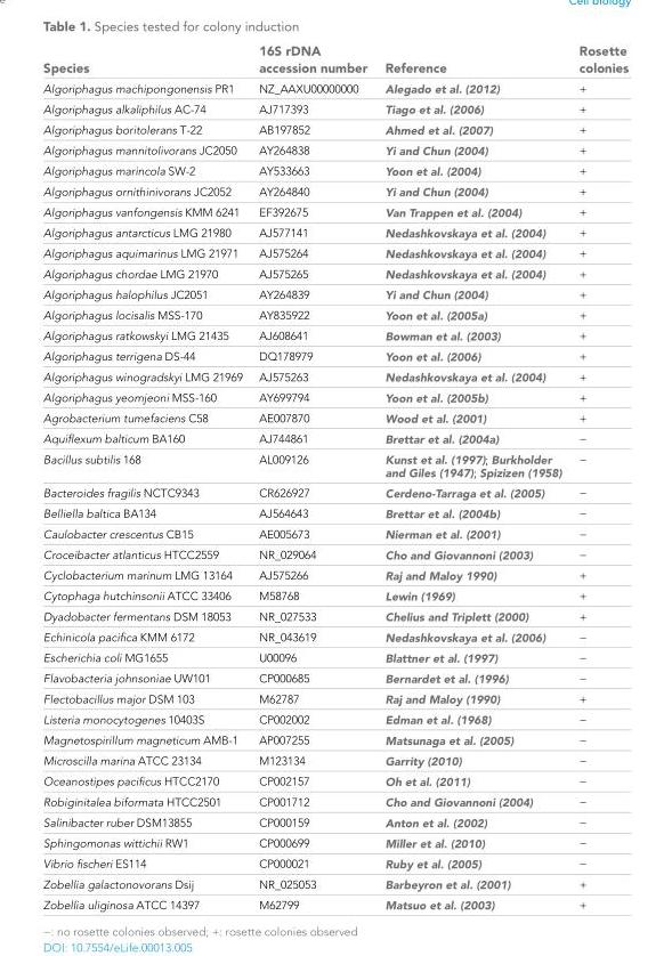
<table><thead><tr><td>Species</td><td>16S rDNA accession number</td><td>Reference</td><td>Rosette colonies</td></tr></thead><tbody><tr><td>Algoriphagus machipongonensis PR1</td><td>NZ_AAXU00000000</td><td>Alegado et al. (2012)</td><td>+</td></tr><tr><td>Algoriphagus alkaliphilus AC-74</td><td>AJ717393</td><td>Tiago et al. (2006)</td><td>+</td></tr><tr><td>Algoriphagus boritolerans T-22</td><td>AB197852</td><td>Ahmed et al. (2007)</td><td>+</td></tr><tr><td>Algoriphagus mannitolivorans JC2050</td><td>AY264838</td><td>Yi and Chun (2004)</td><td>+</td></tr><tr><td>Algoriphagus marincola SW-2</td><td>AY533663</td><td>Yoon et al. (2004)</td><td>+</td></tr><tr><td>Algoriphagus ornithinivorans JC2052</td><td>AY264840</td><td>Yi and Chun (2004)</td><td>+</td></tr><tr><td>Algoriphagus vanfongensis KMM 6241</td><td>EF392675</td><td>Van Trappen et al. (2004)</td><td>+</td></tr><tr><td>Algoriphagus antarcticus LMG 21980</td><td>AJ577141</td><td>Nedashkovskaya et al. (2004)</td><td>+</td></tr><tr><td>Algoriphagus aquimarinus LMG 21971</td><td>AJ575264</td><td>Nedashkovskaya et al. (2004)</td><td>+</td></tr><tr><td>Algoriphagus chordae LMG 21970</td><td>AJ575265</td><td>Nedashkovskaya et al. (2004)</td><td>+</td></tr><tr><td>Algoriphagus halophilus JC2051</td><td>AY264839</td><td>Yi and Chun (2004)</td><td>+</td></tr><tr><td>Algoriphagus locisalis MSS-170</td><td>AY835922</td><td>Yoon et al. (2005a)</td><td>+</td></tr><tr><td>Algoriphagus ratkowskyi LMG 21435</td><td>AJ608641</td><td>Bowman et al. (2003)</td><td>+</td></tr><tr><td>Algoriphagus terrigena DS-44</td><td>DQ178979</td><td>Yoon et al. (2006)</td><td>+</td></tr><tr><td>Algoriphagus winogradskyi LMG 21969</td><td>AJ575263</td><td>Nedashkovskaya et al. (2004)</td><td>+</td></tr><tr><td>Algoriphagus yeomjeoni MSS-160</td><td>AY699794</td><td>Yoon et al. (2005b)</td><td>+</td></tr><tr><td>Agrobacterium tumefaciens C58</td><td>AE007870</td><td>Wood et al. (2001)</td><td>+</td></tr><tr><td>Aquiflexum balticum BA160</td><td>AJ744861</td><td>Brettar et al. (2004a)</td><td>−</td></tr><tr><td>Bacillus subtilis 168</td><td>AL009126</td><td>Kunst et al. (1997); Burkholder and Giles (1947); Spizizen (1958)</td><td>−</td></tr><tr><td>Bacteroides fragilis NCTC9343</td><td>CR626927</td><td>Cerdeno-Tarraga et al. (2005)</td><td>−</td></tr><tr><td>Belliella baltica BA134</td><td>AJ564643</td><td>Brettar et al. (2004b)</td><td>−</td></tr><tr><td>Caulobacter crescentus CB15</td><td>AE005673</td><td>Nierman et al. (2001)</td><td>−</td></tr><tr><td>Croceibacter atlanticus HTCC2559</td><td>NR_029064</td><td>Cho and Giovannoni (2003)</td><td>−</td></tr><tr><td>Cyclobacterium marinum LMG 13164</td><td>AJ575266</td><td>Raj and Maloy 1990)</td><td>+</td></tr><tr><td>Cytophaga hutchinsonii ATCC 33406</td><td>M58768</td><td>Lewin (1969)</td><td>+</td></tr><tr><td>Dyadobacter fermentans DSM 18053</td><td>NR_027533</td><td>Chelius and Triplett (2000)</td><td>+</td></tr><tr><td>Echinicola pacifica KMM 6172</td><td>NR_043619</td><td>Nedashkovskaya et al. (2006)</td><td>−</td></tr><tr><td>Escherichia coli MG1655</td><td>U00096</td><td>Blattner et al. (1997)</td><td>−</td></tr><tr><td>Flavobacteria johnsoniae UW101</td><td>CP000685</td><td>Bernardet et al. (1996)</td><td>−</td></tr><tr><td>Flectobacillus major DSM 103</td><td>M62787</td><td>Raj and Maloy (1990)</td><td>+</td></tr><tr><td>Listeria monocytogenes 10403S</td><td>CP002002</td><td>Edman et al. (1968)</td><td>−</td></tr><tr><td>Magnetospirillum magneticum AMB-1</td><td>AP007255</td><td>Matsunaga et al. (2005)</td><td>−</td></tr><tr><td>Microscilla marina ATCC 23134</td><td>M123134</td><td>Garrity (2010)</td><td>−</td></tr><tr><td>Oceanostipes pacificus HTCC2170</td><td>CP002157</td><td>Oh et al. (2011)</td><td>−</td></tr><tr><td>Robiginitalea biformata HTCC2501</td><td>CP001712</td><td>Cho and Giovannoni (2004)</td><td>−</td></tr><tr><td>Salinibacter ruber DSM13855</td><td>CP000159</td><td>Anton et al. (2002)</td><td>−</td></tr><tr><td>Sphingomonas wittichii RW1</td><td>CP000699</td><td>Miller et al. (2010)</td><td>−</td></tr><tr><td>Vibrio fischeri ES114</td><td>CP000021</td><td>Ruby et al. (2005)</td><td>−</td></tr><tr><td>Zobellia galactonovorans Dsij</td><td>NR_025053</td><td>Barbeyron et al. (2001)</td><td>+</td></tr><tr><td>Zobellia uliginosa ATCC 14397</td><td>M62799</td><td>Matsuo et al. (2003)</td><td>+</td></tr></tbody></table>